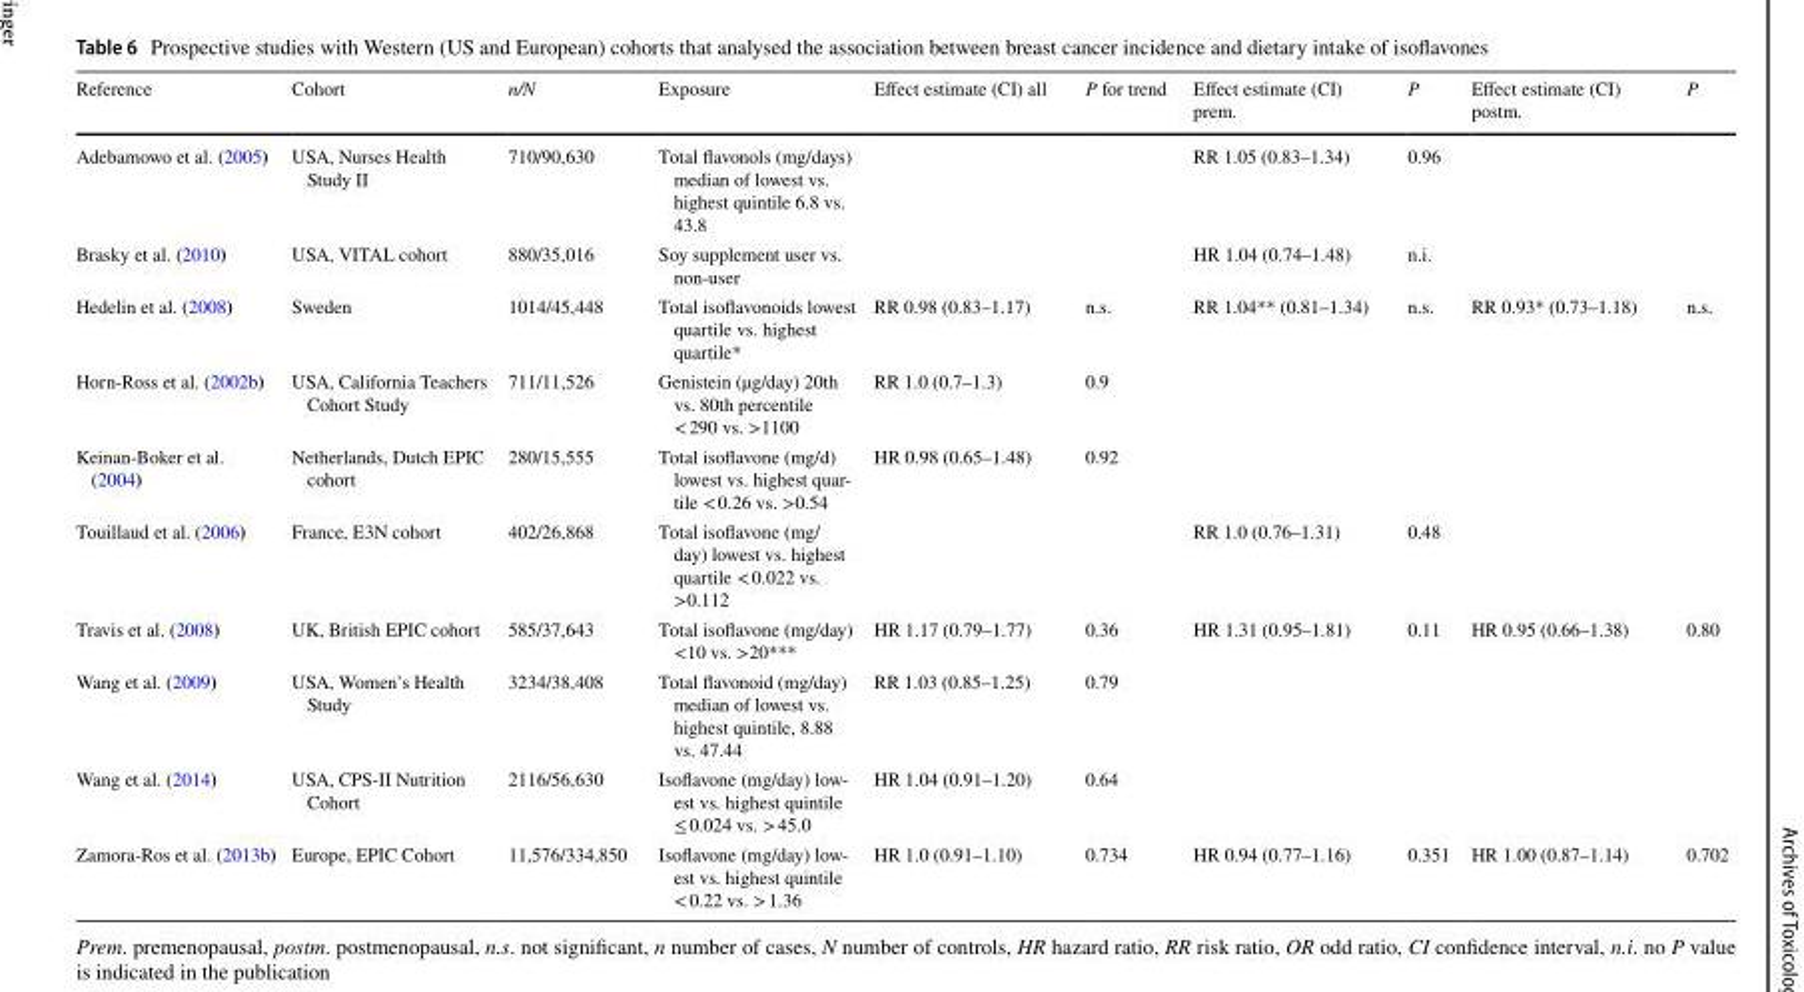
<table><thead><tr><td>Reference</td><td>Cohort</td><td>n/N</td><td>Exposure</td><td>Effect estimate (CI) all</td><td>P for trend</td><td>Effect estimate (CI) prem.</td><td>P</td><td>Effect estimate (CI) postm.</td><td>P</td></tr></thead><tbody><tr><td>Adebamowo et al. (2005)</td><td>USA, Nurses Health Study II</td><td>710/90,630</td><td>Total flavonols (mg/days) median of lowest vs. highest quintile 6.8 vs. 43.8</td><td></td><td></td><td>RR 1.05 (0.83–1.34)</td><td>0.96</td><td></td><td></td></tr><tr><td>Brasky et al. (2010)</td><td>USA, VITAL cohort</td><td>880/35,016</td><td>Soy supplement user vs. non-user</td><td></td><td></td><td>HR 1.04 (0.74–1.48)</td><td>n.i.</td><td></td><td></td></tr><tr><td>Hedelin et al. (2008)</td><td>Sweden</td><td>1014/45,448</td><td>Total isoflavonoids lowest quartile vs. highest quartile*</td><td>RR 0.98 (0.83–1.17)</td><td>n.s.</td><td>RR 1.04** (0.81–1.34)</td><td>n.s.</td><td>RR 0.93* (0.73–1.18)</td><td>n.s.</td></tr><tr><td>Horn-Ross et al. (2002b)</td><td>USA, California Teachers Cohort Study</td><td>711/11,526</td><td>Genistein (µg/day) 20th vs. 80th percentile &lt; 290 vs. &gt;1100</td><td>RR 1.0 (0.7–1.3)</td><td>0.9</td><td></td><td></td><td></td><td></td></tr><tr><td>Keinan-Boker et al. (2004)</td><td>Netherlands, Dutch EPIC cohort</td><td>280/15,555</td><td>Total isoflavone (mg/d) lowest vs. highest quar- tile &lt; 0.26 vs. &gt;0.54</td><td>HR 0.98 (0.65–1.48)</td><td>0.92</td><td></td><td></td><td></td><td></td></tr><tr><td>Touillaud et al. (2006)</td><td>France, E3N cohort</td><td>402/26,868</td><td>Total isoflavone (mg/ day) lowest vs. highest quartile &lt; 0.022 vs. &gt;0.112</td><td></td><td></td><td>RR 1.0 (0.76–1.31)</td><td>0.48</td><td></td><td></td></tr><tr><td>Travis et al. (2008)</td><td>UK, British EPIC cohort</td><td>585/37,643</td><td>Total isoflavone (mg/day) &lt;10 vs. &gt;20***</td><td>HR 1.17 (0.79–1.77)</td><td>0.36</td><td>HR 1.31 (0.95–1.81)</td><td>0.11</td><td>HR 0.95 (0.66–1.38)</td><td>0.80</td></tr><tr><td>Wang et al. (2009)</td><td>USA, Women’s Health Study</td><td>3234/38,408</td><td>Total flavonoid (mg/day) median of lowest vs. highest quintile, 8.88 vs. 47.44</td><td>RR 1.03 (0.85–1.25)</td><td>0.79</td><td></td><td></td><td></td><td></td></tr><tr><td>Wang et al. (2014)</td><td>USA, CPS-II Nutrition Cohort</td><td>2116/56,630</td><td>Isoflavone (mg/day) low- est vs. highest quintile ≤ 0.024 vs. &gt; 45.0</td><td>HR 1.04 (0.91–1.20)</td><td>0.64</td><td></td><td></td><td></td><td></td></tr><tr><td>Zamora-Ros et al. (2013b)</td><td>Europe, EPIC Cohort</td><td>11,576/334,850</td><td>Isoflavone (mg/day) low- est vs. highest quintile &lt; 0.22 vs. &gt; 1.36</td><td>HR 1.0 (0.91–1.10)</td><td>0.734</td><td>HR 0.94 (0.77–1.16)</td><td>0.351</td><td>HR 1.00 (0.87–1.14)</td><td>0.702</td></tr></tbody></table>